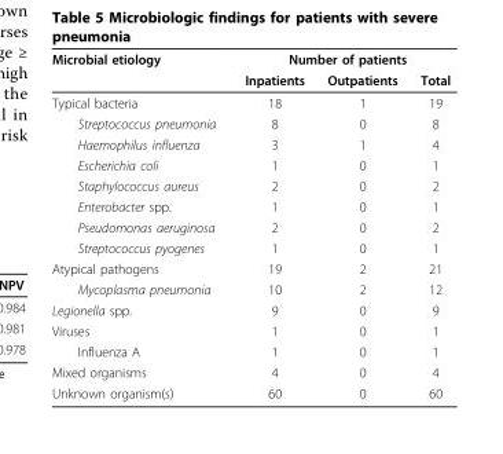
<table><thead><tr><td rowspan="2">Microbial etiology</td><td colspan="3">Number of patients</td></tr><tr><td>Inpatients</td><td>Outpatients</td><td>Total</td></tr></thead><tbody><tr><td>Typical bacteria</td><td>18</td><td>1</td><td>19</td></tr><tr><td>Streptococcus pneumonia</td><td>8</td><td>0</td><td>8</td></tr><tr><td>Haemophilus influenza</td><td>3</td><td>1</td><td>4</td></tr><tr><td>Escherichia coli</td><td>1</td><td>0</td><td>1</td></tr><tr><td>Staphylococcus aureus</td><td>2</td><td>0</td><td>2</td></tr><tr><td>Enterobacter spp.</td><td>1</td><td>0</td><td>1</td></tr><tr><td>Pseudomonas aeruginosa</td><td>2</td><td>0</td><td>2</td></tr><tr><td>Streptococcus pyogenes</td><td>1</td><td>0</td><td>1</td></tr><tr><td>Atypical pathogens</td><td>19</td><td>2</td><td>21</td></tr><tr><td>Mycoplasma pneumonia</td><td>10</td><td>2</td><td>12</td></tr><tr><td>Legionella spp.</td><td>9</td><td>0</td><td>9</td></tr><tr><td>Viruses</td><td>1</td><td>0</td><td>1</td></tr><tr><td>Influenza A</td><td>1</td><td>0</td><td>1</td></tr><tr><td>Mixed organisms</td><td>4</td><td>0</td><td>4</td></tr><tr><td>Unknown organism(s)</td><td>60</td><td>0</td><td>60</td></tr></tbody></table>